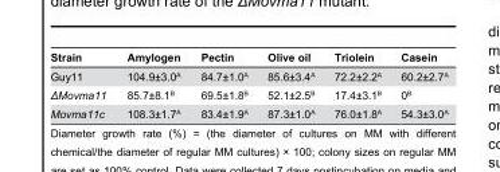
<table><thead><tr><td>Strain</td><td>Amylogen</td><td>Pectin</td><td>Olive oil</td><td>Triolein</td><td>Casein</td></tr></thead><tbody><tr><td>Guy11</td><td>104.9±3.0<sup>A</sup></td><td>84.7±1.0<sup>A</sup></td><td>85.6±3.4<sup>A</sup></td><td>72.2±2.2<sup>A</sup></td><td>60.2±2.7<sup>A</sup></td></tr><tr><td>ΔMovma11</td><td>85.7±8.1<sup>B</sup></td><td>69.5±1.8<sup>B</sup></td><td>52.1±2.5<sup>B</sup></td><td>17.4±3.1<sup>B</sup></td><td>0<sup>B</sup></td></tr><tr><td>Movma11c</td><td>108.3±1.7<sup>A</sup></td><td>83.4±1.9<sup>A</sup></td><td>87.3±1.0<sup>A</sup></td><td>76.0±1.8<sup>A</sup></td><td>54.3±3.0<sup>A</sup></td></tr></tbody></table>